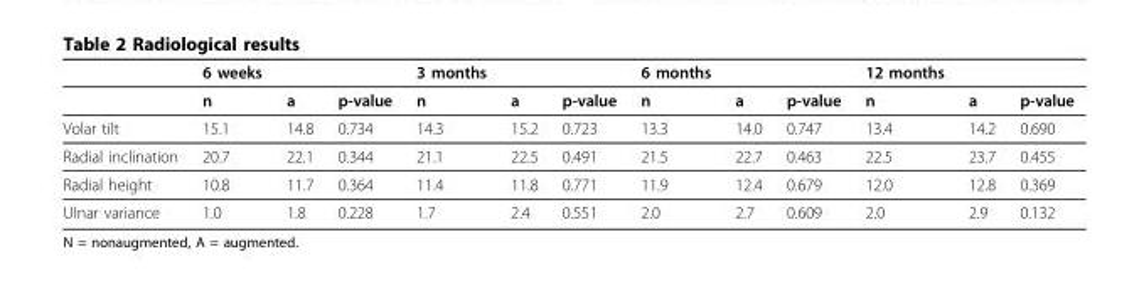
<table><thead><tr><td></td><td>6 weeks</td><td></td><td></td><td>3 months</td><td></td><td></td><td>6 months</td><td></td><td></td><td>12 months</td><td></td><td></td></tr></thead><tbody><tr><td></td><td>n</td><td>a</td><td>p-value</td><td>n</td><td>a</td><td>p-value</td><td>n</td><td>a</td><td>p-value</td><td>n</td><td>a</td><td>p-value</td></tr><tr><td>Volar tilt</td><td>15.1</td><td>14.8</td><td>0.734</td><td>14.3</td><td>15.2</td><td>0.723</td><td>13.3</td><td>14.0</td><td>0.747</td><td>13.4</td><td>14.2</td><td>0.690</td></tr><tr><td>Radial inclination</td><td>20.7</td><td>22.1</td><td>0.344</td><td>21.1</td><td>22.5</td><td>0.491</td><td>21.5</td><td>22.7</td><td>0.463</td><td>22.5</td><td>23.7</td><td>0.455</td></tr><tr><td>Radial height</td><td>10.8</td><td>11.7</td><td>0.364</td><td>11.4</td><td>11.8</td><td>0.771</td><td>11.9</td><td>12.4</td><td>0.679</td><td>12.0</td><td>12.8</td><td>0.369</td></tr><tr><td>Ulnar variance</td><td>1.0</td><td>1.8</td><td>0.228</td><td>1.7</td><td>2.4</td><td>0.551</td><td>2.0</td><td>2.7</td><td>0.609</td><td>2.0</td><td>2.9</td><td>0.132</td></tr></tbody></table>